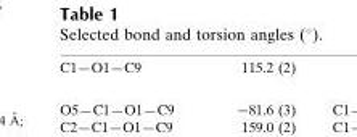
<table><tbody><tr><td>C1—O1—C9</td><td>115.2 (2)</td></tr></tbody></table>